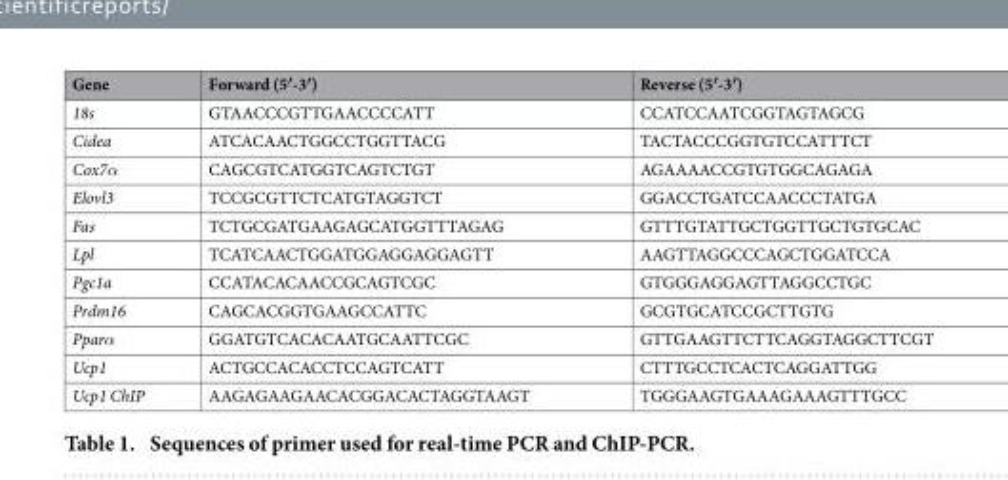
<table><thead><tr><td>Gene</td><td>Forward (5′-3′)</td><td>Reverse (5′-3′)</td></tr></thead><tbody><tr><td>18s</td><td>GTAACCCGTTGAACCCCATT</td><td>CCATCCAATCGGTAGTAGCG</td></tr><tr><td>Cidea</td><td>ATCACAACTGGCCTGGTTACG</td><td>TACTACCCGGTGTCCATTTCT</td></tr><tr><td>Cox7α</td><td>CAGCGTCATGGTCAGTCTGT</td><td>AGAAAACCGTGTGGCAGAGA</td></tr><tr><td>Elovl3</td><td>TCCGCGTTCTCATGTAGGTCT</td><td>GGACCTGATCCAACCCTATGA</td></tr><tr><td>Fas</td><td>TCTGCGATGAAGAGCATGGTTTAGAG</td><td>GTTTGTATTGCTGGTTGCTGTGCAC</td></tr><tr><td>Lpl</td><td>TCATCAACTGGATGGAGGAGGAGTT</td><td>AAGTTAGGCCCAGCTGGATCCA</td></tr><tr><td>Pgc1a</td><td>CCATACACAACCGCAGTCGC</td><td>GTGGGAGGAGTTAGGCCTGC</td></tr><tr><td>Prdm16</td><td>CAGCACGGTGAAGCCATTC</td><td>GCGTGCATCCGCTTGTG</td></tr><tr><td>Pparα</td><td>GGATGTCACACAATGCAATTCGC</td><td>GTTGAAGTTCTTCAGGTAGGCTTCGT</td></tr><tr><td>Ucp1</td><td>ACTGCCACACCTCCAGTCATT</td><td>CTTTGCCTCACTCAGGATTGG</td></tr><tr><td>Ucp1 ChIP</td><td>AAGAGAAGAACACGGACACTAGGTAAGT</td><td>TGGGAAGTGAAAGAAAGTTTGCC</td></tr></tbody></table>